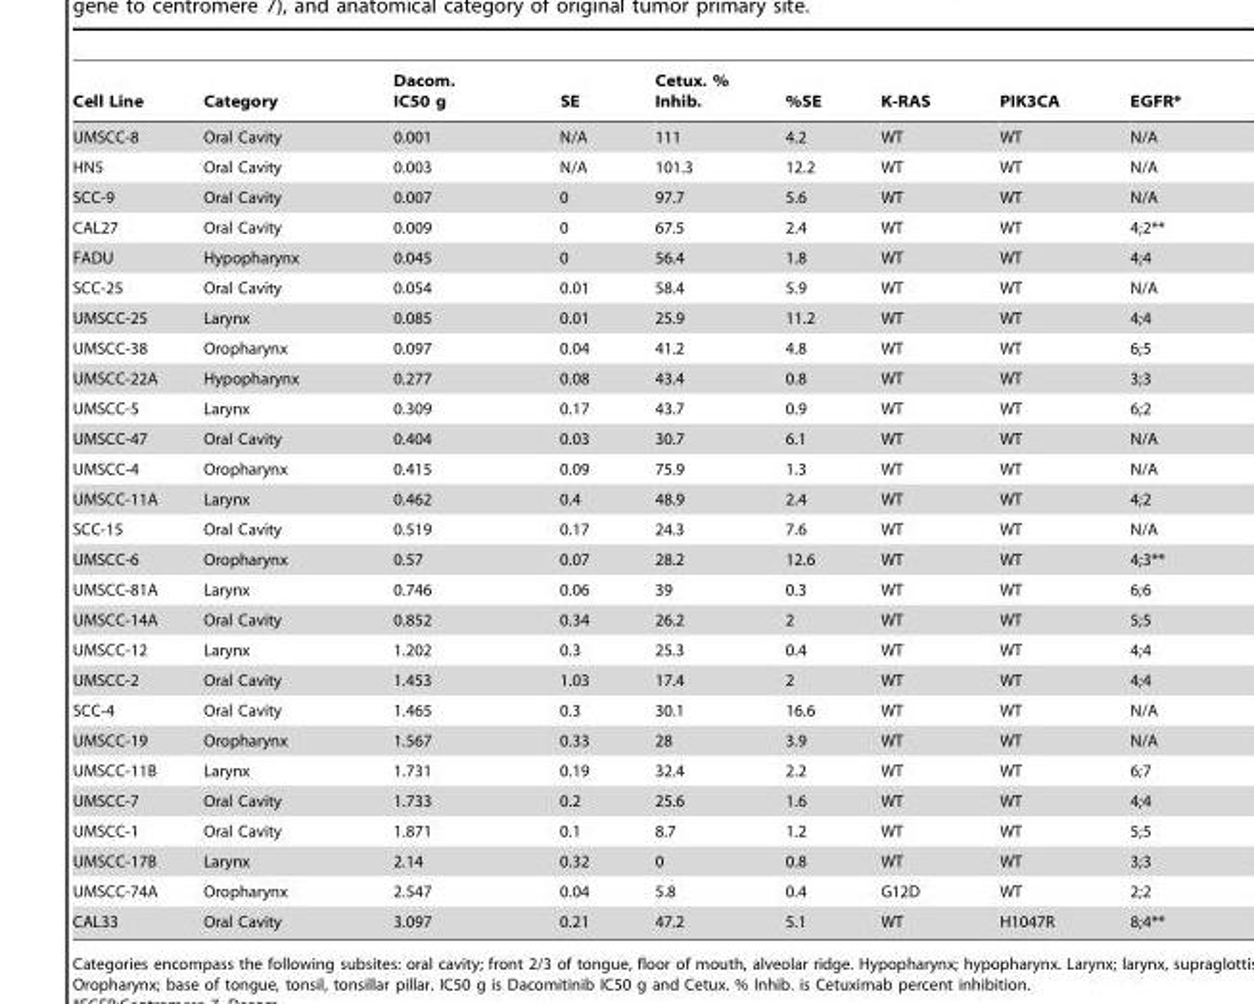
<table><thead><tr><td>Cell Line</td><td>Category</td><td>Dacom. IC50 g</td><td>SE</td><td>Cetux. % Inhib.</td><td>%SE</td><td>K-RAS</td><td>PIK3CA</td><td>EGFR*</td></tr></thead><tbody><tr><td>UMSCC-8</td><td>Oral Cavity</td><td>0.001</td><td>N/A</td><td>111</td><td>4.2</td><td>WT</td><td>WT</td><td>N/A</td></tr><tr><td>HN5</td><td>Oral Cavity</td><td>0.003</td><td>N/A</td><td>101.3</td><td>12.2</td><td>WT</td><td>WT</td><td>N/A</td></tr><tr><td>SCC-9</td><td>Oral Cavity</td><td>0.007</td><td>0</td><td>97.7</td><td>5.6</td><td>WT</td><td>WT</td><td>N/A</td></tr><tr><td>CAL27</td><td>Oral Cavity</td><td>0.009</td><td>0</td><td>67.5</td><td>2.4</td><td>WT</td><td>WT</td><td>4;2**</td></tr><tr><td>FADU</td><td>Hypopharynx</td><td>0.045</td><td>0</td><td>56.4</td><td>1.8</td><td>WT</td><td>WT</td><td>4;4</td></tr><tr><td>SCC-25</td><td>Oral Cavity</td><td>0.054</td><td>0.01</td><td>58.4</td><td>5.9</td><td>WT</td><td>WT</td><td>N/A</td></tr><tr><td>UMSCC-25</td><td>Larynx</td><td>0.085</td><td>0.01</td><td>25.9</td><td>11.2</td><td>WT</td><td>WT</td><td>4;4</td></tr><tr><td>UMSCC-38</td><td>Oropharynx</td><td>0.097</td><td>0.04</td><td>41.2</td><td>4.8</td><td>WT</td><td>WT</td><td>6;5</td></tr><tr><td>UMSCC-22A</td><td>Hypopharynx</td><td>0.277</td><td>0.08</td><td>43.4</td><td>0.8</td><td>WT</td><td>WT</td><td>3;3</td></tr><tr><td>UMSCC-5</td><td>Larynx</td><td>0.309</td><td>0.17</td><td>43.7</td><td>0.9</td><td>WT</td><td>WT</td><td>6;2</td></tr><tr><td>UMSCC-47</td><td>Oral Cavity</td><td>0.404</td><td>0.03</td><td>30.7</td><td>6.1</td><td>WT</td><td>WT</td><td>N/A</td></tr><tr><td>UMSCC-4</td><td>Oropharynx</td><td>0.415</td><td>0.09</td><td>75.9</td><td>1.3</td><td>WT</td><td>WT</td><td>N/A</td></tr><tr><td>UMSCC-11A</td><td>Larynx</td><td>0.462</td><td>0.4</td><td>48.9</td><td>2.4</td><td>WT</td><td>WT</td><td>4;2</td></tr><tr><td>SCC-15</td><td>Oral Cavity</td><td>0.519</td><td>0.17</td><td>24.3</td><td>7.6</td><td>WT</td><td>WT</td><td>N/A</td></tr><tr><td>UMSCC-6</td><td>Oropharynx</td><td>0.57</td><td>0.07</td><td>28.2</td><td>12.6</td><td>WT</td><td>WT</td><td>4;3**</td></tr><tr><td>UMSCC-81A</td><td>Larynx</td><td>0.746</td><td>0.06</td><td>39</td><td>0.3</td><td>WT</td><td>WT</td><td>6;6</td></tr><tr><td>UMSCC-14A</td><td>Oral Cavity</td><td>0.852</td><td>0.34</td><td>26.2</td><td>2</td><td>WT</td><td>WT</td><td>5;5</td></tr><tr><td>UMSCC-12</td><td>Larynx</td><td>1.202</td><td>0.3</td><td>25.3</td><td>0.4</td><td>WT</td><td>WT</td><td>4;4</td></tr><tr><td>UMSCC-2</td><td>Oral Cavity</td><td>1.453</td><td>1.03</td><td>17.4</td><td>2</td><td>WT</td><td>WT</td><td>4;4</td></tr><tr><td>SCC-4</td><td>Oral Cavity</td><td>1.465</td><td>0.3</td><td>30.1</td><td>16.6</td><td>WT</td><td>WT</td><td>N/A</td></tr><tr><td>UMSCC-19</td><td>Oropharynx</td><td>1.567</td><td>0.33</td><td>28</td><td>3.9</td><td>WT</td><td>WT</td><td>N/A</td></tr><tr><td>UMSCC-11B</td><td>Larynx</td><td>1.731</td><td>0.19</td><td>32.4</td><td>2.2</td><td>WT</td><td>WT</td><td>6;7</td></tr><tr><td>UMSCC-7</td><td>Oral Cavity</td><td>1.733</td><td>0.2</td><td>25.6</td><td>1.6</td><td>WT</td><td>WT</td><td>4;4</td></tr><tr><td>UMSCC-1</td><td>Oral Cavity</td><td>1.871</td><td>0.1</td><td>8.7</td><td>1.2</td><td>WT</td><td>WT</td><td>5;5</td></tr><tr><td>UMSCC-17B</td><td>Larynx</td><td>2.14</td><td>0.32</td><td>0</td><td>0.8</td><td>WT</td><td>WT</td><td>3;3</td></tr><tr><td>UMSCC-74A</td><td>Oropharynx</td><td>2.547</td><td>0.04</td><td>5.8</td><td>0.4</td><td>G12D</td><td>WT</td><td>2;2</td></tr><tr><td>CAL33</td><td>Oral Cavity</td><td>3.097</td><td>0.21</td><td>47.2</td><td>5.1</td><td>WT</td><td>H1047R</td><td>8;4**</td></tr></tbody></table>